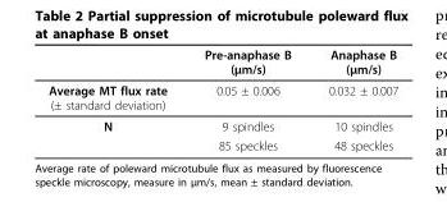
<table><thead><tr><td></td><td>Pre-anaphase B (μm/s)</td><td>Anaphase B (μm/s)</td></tr></thead><tbody><tr><td>Average MT flux rate (± standard deviation)</td><td>0.05 ± 0.006</td><td>0.032 ± 0.007</td></tr><tr><td rowspan="2">N</td><td>9 spindles</td><td>10 spindles</td></tr><tr><td>85 speckles</td><td>48 speckles</td></tr></tbody></table>